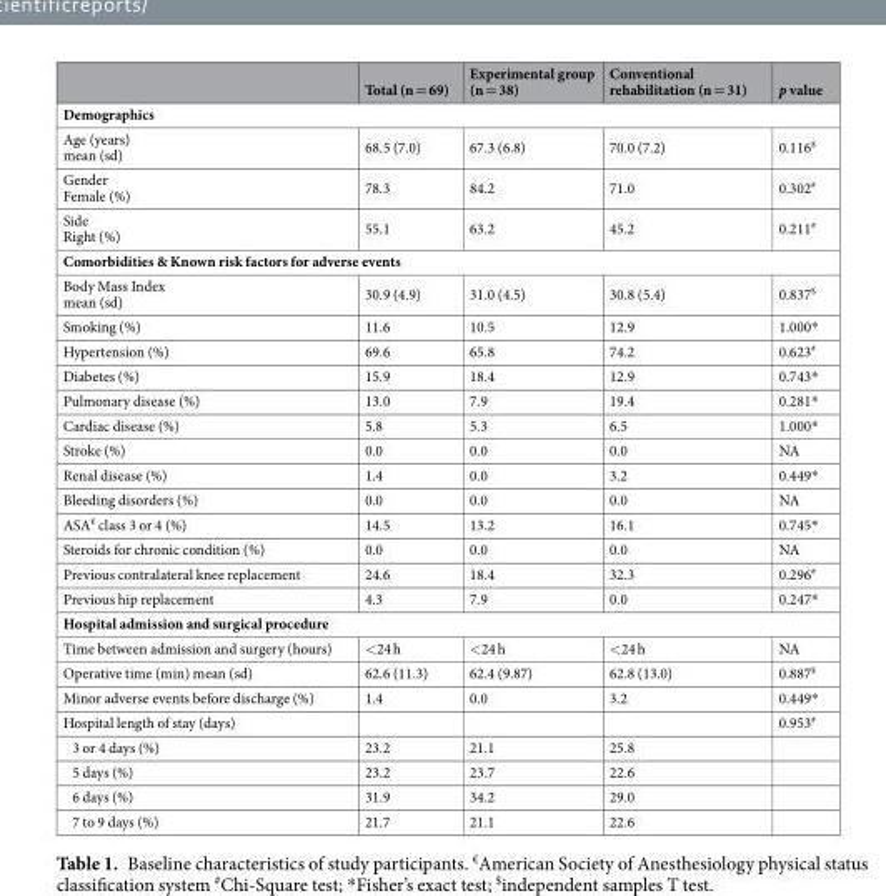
<table><thead><tr><td></td><td>Total (n = 69)</td><td>Experimental group (n = 38)</td><td>Conventional rehabilitation (n = 31)</td><td>p value</td></tr></thead><tbody><tr><td colspan="5">Demographics</td></tr><tr><td>Age (years) mean (sd)</td><td>68.5 (7.0)</td><td>67.3 (6.8)</td><td>70.0 (7.2)</td><td>0.116<sup>$</sup></td></tr><tr><td>Gender Female (%)</td><td>78.3</td><td>84.2</td><td>71.0</td><td>0.302<sup>#</sup></td></tr><tr><td>Side Right (%)</td><td>55.1</td><td>63.2</td><td>45.2</td><td>0.211<sup>#</sup></td></tr><tr><td colspan="5">Comorbidities &amp; Known risk factors for adverse events</td></tr><tr><td>Body Mass Index mean (sd)</td><td>30.9 (4.9)</td><td>31.0 (4.5)</td><td>30.8 (5.4)</td><td>0.837<sup>$</sup></td></tr><tr><td>Smoking (%)</td><td>11.6</td><td>10.5</td><td>12.9</td><td>1.000*</td></tr><tr><td>Hypertension (%)</td><td>69.6</td><td>65.8</td><td>74.2</td><td>0.623<sup>#</sup></td></tr><tr><td>Diabetes (%)</td><td>15.9</td><td>18.4</td><td>12.9</td><td>0.743*</td></tr><tr><td>Pulmonary disease (%)</td><td>13.0</td><td>7.9</td><td>19.4</td><td>0.281*</td></tr><tr><td>Cardiac disease (%)</td><td>5.8</td><td>5.3</td><td>6.5</td><td>1.000*</td></tr><tr><td>Stroke (%)</td><td>0.0</td><td>0.0</td><td>0.0</td><td>NA</td></tr><tr><td>Renal disease (%)</td><td>1.4</td><td>0.0</td><td>3.2</td><td>0.449*</td></tr><tr><td>Bleeding disorders (%)</td><td>0.0</td><td>0.0</td><td>0.0</td><td>NA</td></tr><tr><td>ASA<sup>€</sup> class 3 or 4 (%)</td><td>14.5</td><td>13.2</td><td>16.1</td><td>0.745*</td></tr><tr><td>Steroids for chronic condition (%)</td><td>0.0</td><td>0.0</td><td>0.0</td><td>NA</td></tr><tr><td>Previous contralateral knee replacement</td><td>24.6</td><td>18.4</td><td>32.3</td><td>0.296<sup>#</sup></td></tr><tr><td>Previous hip replacement</td><td>4.3</td><td>7.9</td><td>0.0</td><td>0.247*</td></tr><tr><td colspan="5">Hospital admission and surgical procedure</td></tr><tr><td>Time between admission and surgery (hours)</td><td>&lt;24 h</td><td>&lt;24 h</td><td>&lt;24 h</td><td>NA</td></tr><tr><td>Operative time (min) mean (sd)</td><td>62.6 (11.3)</td><td>62.4 (9.87)</td><td>62.8 (13.0)</td><td>0.887<sup>$</sup></td></tr><tr><td>Minor adverse events before discharge (%)</td><td>1.4</td><td>0.0</td><td>3.2</td><td>0.449*</td></tr><tr><td>Hospital length of stay (days)</td><td></td><td></td><td></td><td>0.953<sup>#</sup></td></tr><tr><td>3 or 4 days (%)</td><td>23.2</td><td>21.1</td><td>25.8</td><td></td></tr><tr><td>5 days (%)</td><td>23.2</td><td>23.7</td><td>22.6</td><td></td></tr><tr><td>6 days (%)</td><td>31.9</td><td>34.2</td><td>29.0</td><td></td></tr><tr><td>7 to 9 days (%)</td><td>21.7</td><td>21.1</td><td>22.6</td><td></td></tr></tbody></table>